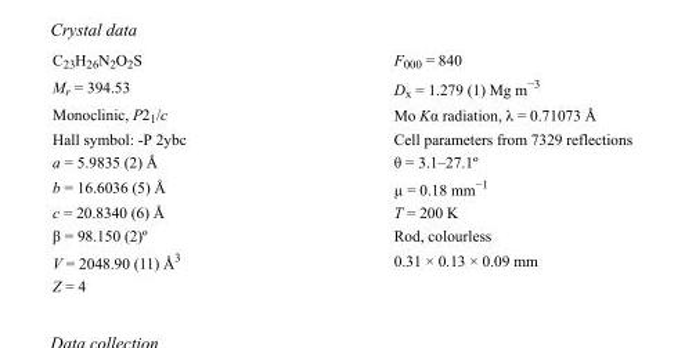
<table><tbody><tr><td>C<sub>23</sub>H<sub>26</sub>N<sub>2</sub>O<sub>2</sub>S</td><td>F000 = 840</td></tr><tr><td>M<sub>r</sub> = 394.53</td><td>D<sub>x</sub> = 1.279 (1) Mg m<sup>−3</sup></td></tr><tr><td>Monoclinic, P2<sub>1</sub>/c</td><td>Mo Kα radiation, λ = 0.71073 Å</td></tr><tr><td>Hall symbol: -P 2ybc</td><td>Cell parameters from 7329 reflections</td></tr><tr><td>a = 5.9835 (2) Å</td><td>θ = 3.1–27.1º</td></tr><tr><td>b = 16.6036 (5) Å</td><td>µ = 0.18 mm<sup>−1</sup></td></tr><tr><td>c = 20.8340 (6) Å</td><td>T = 200 K</td></tr><tr><td>β = 98.150 (2)º</td><td>Rod, colourless</td></tr><tr><td>V = 2048.90 (11) Å<sup>3</sup></td><td>0.31 × 0.13 × 0.09 mm</td></tr><tr><td>Z = 4</td><td></td></tr></tbody></table>